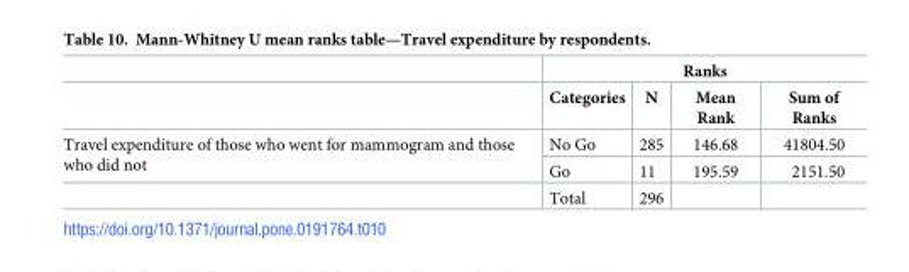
<table><thead><tr><td rowspan="2"></td><td colspan="4">Ranks</td></tr><tr><td>Categories</td><td>N</td><td>Mean Rank</td><td>Sum of Ranks</td></tr></thead><tbody><tr><td rowspan="3">Travel expenditure of those who went for mammogram and those who did not</td><td>No Go</td><td>285</td><td>146.68</td><td>41804.50</td></tr><tr><td>Go</td><td>11</td><td>195.59</td><td>2151.50</td></tr><tr><td>Total</td><td>296</td><td></td><td></td></tr></tbody></table>